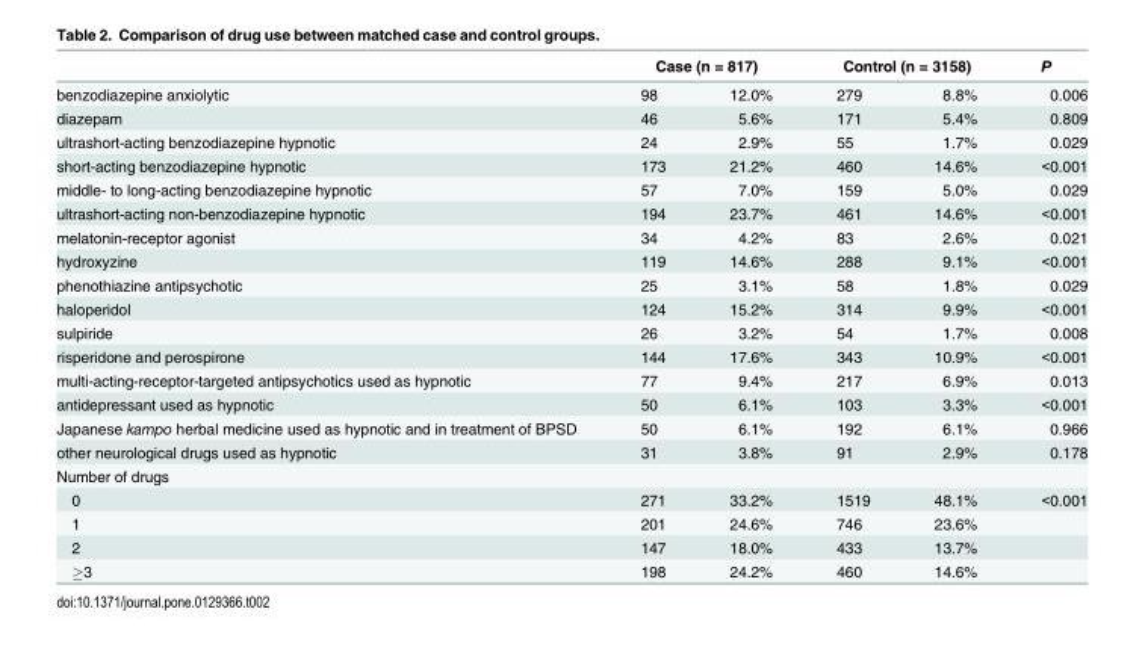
<table><thead><tr><td rowspan="2">benzodiazepine anxiolytic</td><td colspan="2">Case (n = 817)</td><td colspan="2">Control (n = 3158)</td><td rowspan="2">P 0.006</td></tr><tr><td>98</td><td>12.0%</td><td>279</td><td>8.8%</td></tr></thead><tbody><tr><td>diazepam</td><td>46</td><td>5.6%</td><td>171</td><td>5.4%</td><td>0.809</td></tr><tr><td>ultrashort-acting benzodiazepine hypnotic</td><td>24</td><td>2.9%</td><td>55</td><td>1.7%</td><td>0.029</td></tr><tr><td>short-acting benzodiazepine hypnotic</td><td>173</td><td>21.2%</td><td>460</td><td>14.6%</td><td>&lt;0.001</td></tr><tr><td>middle- to long-acting benzodiazepine hypnotic</td><td>57</td><td>7.0%</td><td>159</td><td>5.0%</td><td>0.029</td></tr><tr><td>ultrashort-acting non-benzodiazepine hypnotic</td><td>194</td><td>23.7%</td><td>461</td><td>14.6%</td><td>&lt;0.001</td></tr><tr><td>melatonin-receptor agonist</td><td>34</td><td>4.2%</td><td>83</td><td>2.6%</td><td>0.021</td></tr><tr><td>hydroxyzine</td><td>119</td><td>14.6%</td><td>288</td><td>9.1%</td><td>&lt;0.001</td></tr><tr><td>phenothiazine antipsychotic</td><td>25</td><td>3.1%</td><td>58</td><td>1.8%</td><td>0.029</td></tr><tr><td>haloperidol</td><td>124</td><td>15.2%</td><td>314</td><td>9.9%</td><td>&lt;0.001</td></tr><tr><td>sulpiride</td><td>26</td><td>3.2%</td><td>54</td><td>1.7%</td><td>0.008</td></tr><tr><td>risperidone and perospirone</td><td>144</td><td>17.6%</td><td>343</td><td>10.9%</td><td>&lt;0.001</td></tr><tr><td>multi-acting-receptor-targeted antipsychotics used as hypnotic</td><td>77</td><td>9.4%</td><td>217</td><td>6.9%</td><td>0.013</td></tr><tr><td>antidepressant used as hypnotic</td><td>50</td><td>6.1%</td><td>103</td><td>3.3%</td><td>&lt;0.001</td></tr><tr><td>Japanese kampo herbal medicine used as hypnotic and in treatment of BPSD</td><td>50</td><td>6.1%</td><td>192</td><td>6.1%</td><td>0.966</td></tr><tr><td>other neurological drugs used as hypnotic</td><td>31</td><td>3.8%</td><td>91</td><td>2.9%</td><td>0.178</td></tr><tr><td colspan="6">Number of drugs</td></tr><tr><td>0</td><td>271</td><td>33.2%</td><td>1519</td><td>48.1%</td><td>&lt;0.001</td></tr><tr><td>1</td><td>201</td><td>24.6%</td><td>746</td><td>23.6%</td><td></td></tr><tr><td>2</td><td>147</td><td>18.0%</td><td>433</td><td>13.7%</td><td></td></tr><tr><td>≥3</td><td>198</td><td>24.2%</td><td>460</td><td>14.6%</td><td></td></tr></tbody></table>